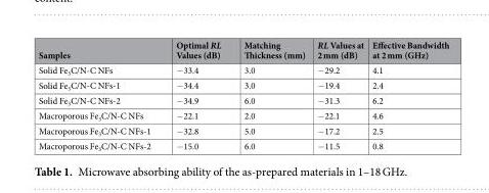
<table><thead><tr><td>Samples</td><td>Optimal RL Values (dB)</td><td>Matching Thickness (mm)</td><td>RL Values at 2 mm (dB)</td><td>Effective Bandwidth at 2 mm (GHz)</td></tr></thead><tbody><tr><td>Solid Fe<sub>3</sub>C/N-C NFs</td><td>−33.4</td><td>3.0</td><td>−29.2</td><td>4.1</td></tr><tr><td>Solid Fe<sub>3</sub>C/N-C NFs-1</td><td>−34.4</td><td>3.0</td><td>−19.4</td><td>2.4</td></tr><tr><td>Solid Fe<sub>3</sub>C/N-C NFs-2</td><td>−34.9</td><td>6.0</td><td>−31.3</td><td>6.2</td></tr><tr><td>Macroporous Fe<sub>3</sub>C/N-C NFs</td><td>−22.1</td><td>2.0</td><td>−22.1</td><td>4.6</td></tr><tr><td>Macroporous Fe<sub>3</sub>C/N-C NFs-1</td><td>−32.8</td><td>5.0</td><td>−17.2</td><td>2.5</td></tr><tr><td>Macroporous Fe<sub>3</sub>C/N-C NFs-2</td><td>−15.0</td><td>6.0</td><td>−11.5</td><td>0.8</td></tr></tbody></table>